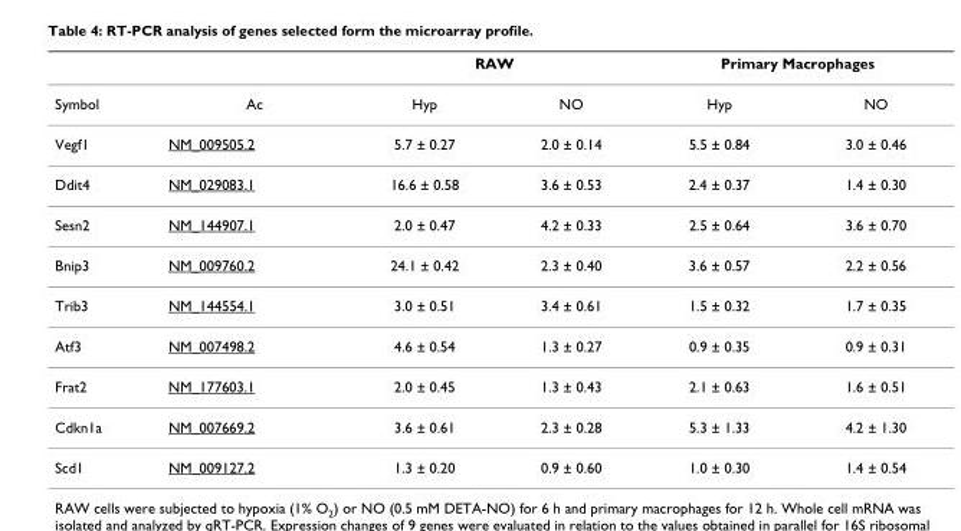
<table><thead><tr><td rowspan="2">Symbol</td><td rowspan="2">Ac</td><td colspan="2">RAW</td><td colspan="2">Primary Macrophages</td></tr><tr><td>Hyp</td><td>NO</td><td>Hyp</td><td>NO</td></tr></thead><tbody><tr><td>Vegf1</td><td>NM_009505.2</td><td>5.7 ± 0.27</td><td>2.0 ± 0.14</td><td>5.5 ± 0.84</td><td>3.0 ± 0.46</td></tr><tr><td>Ddit4</td><td>NM_029083.1</td><td>16.6 ± 0.58</td><td>3.6 ± 0.53</td><td>2.4 ± 0.37</td><td>1.4 ± 0.30</td></tr><tr><td>Sesn2</td><td>NM_144907.1</td><td>2.0 ± 0.47</td><td>4.2 ± 0.33</td><td>2.5 ± 0.64</td><td>3.6 ± 0.70</td></tr><tr><td>Bnip3</td><td>NM_009760.2</td><td>24.1 ± 0.42</td><td>2.3 ± 0.40</td><td>3.6 ± 0.57</td><td>2.2 ± 0.56</td></tr><tr><td>Trib3</td><td>NM_144554.1</td><td>3.0 ± 0.51</td><td>3.4 ± 0.61</td><td>1.5 ± 0.32</td><td>1.7 ± 0.35</td></tr><tr><td>Atf3</td><td>NM_007498.2</td><td>4.6 ± 0.54</td><td>1.3 ± 0.27</td><td>0.9 ± 0.35</td><td>0.9 ± 0.31</td></tr><tr><td>Frat2</td><td>NM_177603.1</td><td>2.0 ± 0.45</td><td>1.3 ± 0.43</td><td>2.1 ± 0.63</td><td>1.6 ± 0.51</td></tr><tr><td>Cdkn1a</td><td>NM_007669.2</td><td>3.6 ± 0.61</td><td>2.3 ± 0.28</td><td>5.3 ± 1.33</td><td>4.2 ± 1.30</td></tr><tr><td>Scd1</td><td>NM_009127.2</td><td>1.3 ± 0.20</td><td>0.9 ± 0.60</td><td>1.0 ± 0.30</td><td>1.4 ± 0.54</td></tr></tbody></table>